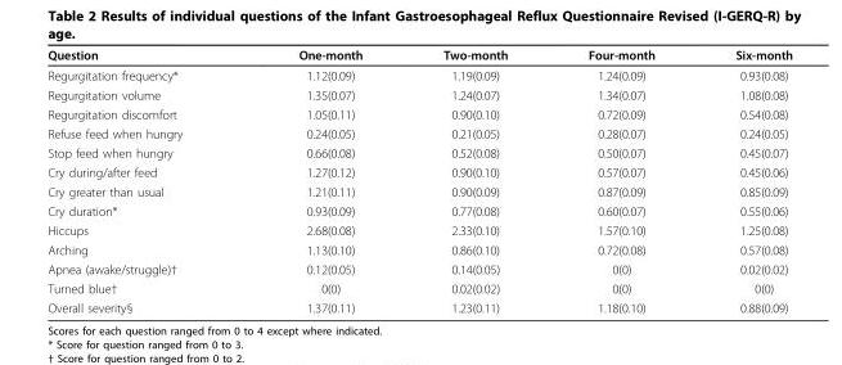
<table><thead><tr><td>Question</td><td>One-month</td><td>Two-month</td><td>Four-month</td><td>Six-month</td></tr></thead><tbody><tr><td>Regurgitation frequency*</td><td>1.12(0.09)</td><td>1.19(0.09)</td><td>1.24(0.09)</td><td>0.93(0.08)</td></tr><tr><td>Regurgitation volume</td><td>1.35(0.07)</td><td>1.24(0.07)</td><td>1.34(0.07)</td><td>1.08(0.08)</td></tr><tr><td>Regurgitation discomfort</td><td>1.05(0.11)</td><td>0.90(0.10)</td><td>0.72(0.09)</td><td>0.54(0.08)</td></tr><tr><td>Refuse feed when hungry</td><td>0.24(0.05)</td><td>0.21(0.05)</td><td>0.28(0.07)</td><td>0.24(0.05)</td></tr><tr><td>Stop feed when hungry</td><td>0.66(0.08)</td><td>0.52(0.08)</td><td>0.50(0.07)</td><td>0.45(0.07)</td></tr><tr><td>Cry during/after feed</td><td>1.27(0.12)</td><td>0.90(0.10)</td><td>0.57(0.07)</td><td>0.45(0.06)</td></tr><tr><td>Cry greater than usual</td><td>1.21(0.11)</td><td>0.90(0.09)</td><td>0.87(0.09)</td><td>0.85(0.09)</td></tr><tr><td>Cry duration*</td><td>0.93(0.09)</td><td>0.77(0.08)</td><td>0.60(0.07)</td><td>0.55(0.06)</td></tr><tr><td>Hiccups</td><td>2.68(0.08)</td><td>2.33(0.10)</td><td>1.57(0.10)</td><td>1.25(0.08)</td></tr><tr><td>Arching</td><td>1.13(0.10)</td><td>0.86(0.10)</td><td>0.72(0.08)</td><td>0.57(0.08)</td></tr><tr><td>Apnea (awake/struggle)†</td><td>0.12(0.05)</td><td>0.14(0.05)</td><td>0(0)</td><td>0.02(0.02)</td></tr><tr><td>Turned blue†</td><td>0(0)</td><td>0.02(0.02)</td><td>0(0)</td><td>0(0)</td></tr><tr><td>Overall severity§</td><td>1.37(0.11)</td><td>1.23(0.11)</td><td>1.18(0.10)</td><td>0.88(0.09)</td></tr></tbody></table>